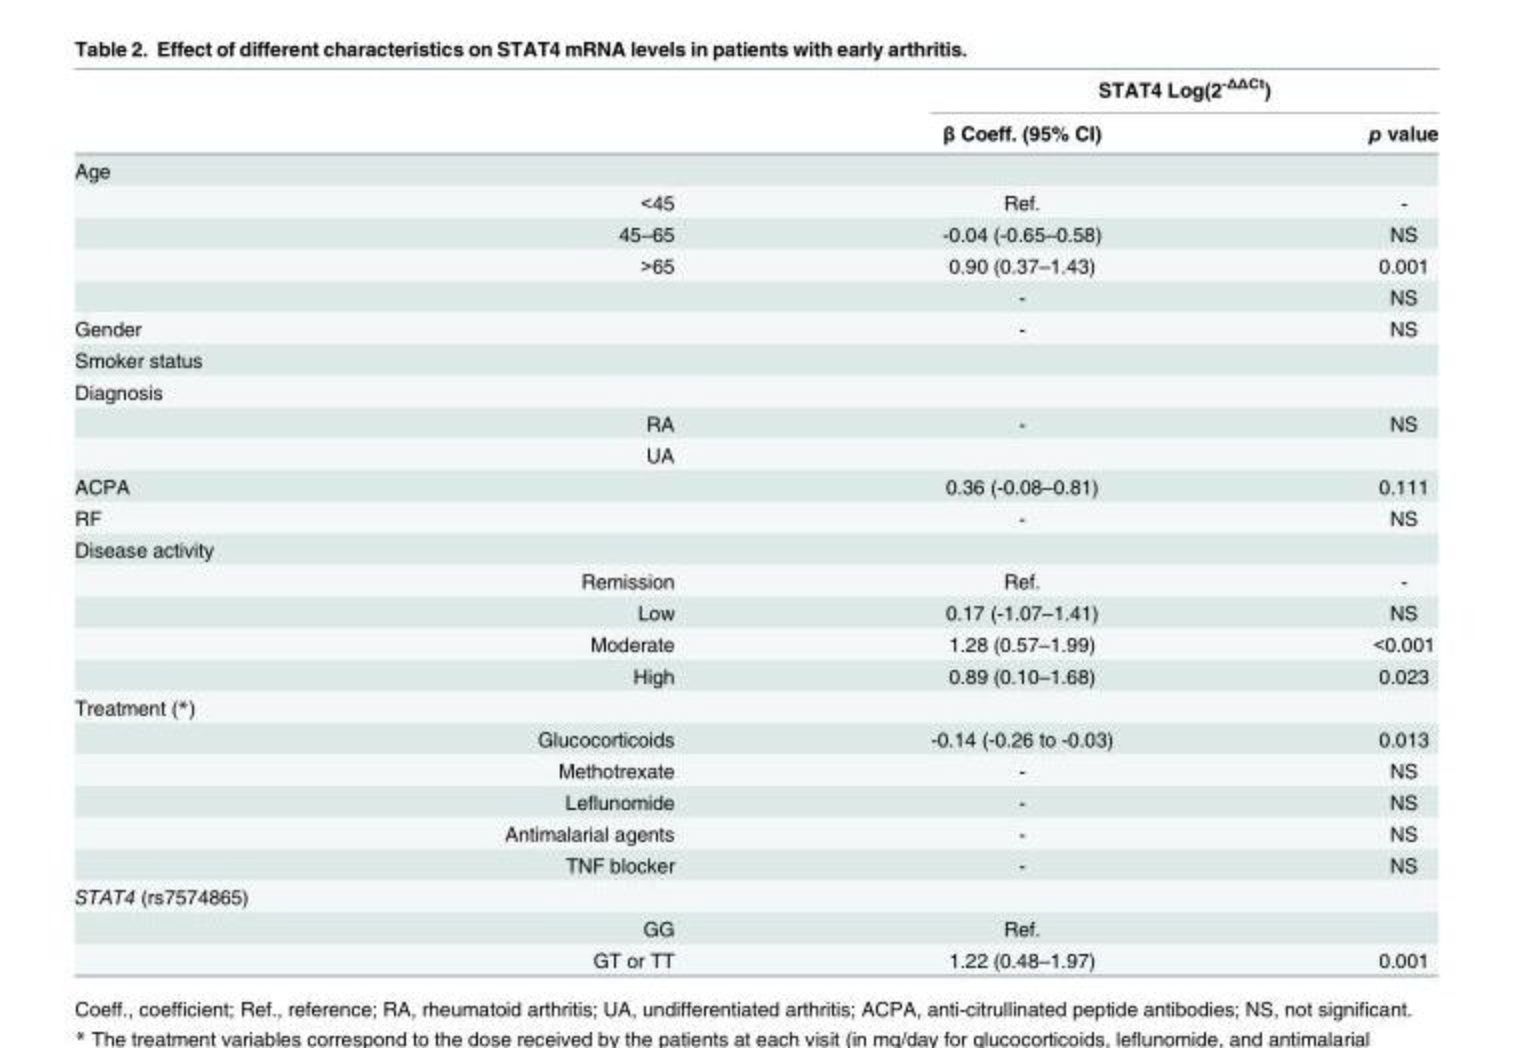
<table><thead><tr><td rowspan="2"></td><td rowspan="2"></td><td colspan="2">STAT4 Log(2<sup>-ΔΔCt</sup>)</td></tr><tr><td>β Coeff. (95% CI)</td><td>p value</td></tr></thead><tbody><tr><td colspan="4">Age</td></tr><tr><td></td><td>&lt;45</td><td>Ref.</td><td>-</td></tr><tr><td></td><td>45–65</td><td>-0.04 (-0.65–0.58)</td><td>NS</td></tr><tr><td></td><td>&gt;65</td><td>0.90 (0.37–1.43)</td><td>0.001</td></tr><tr><td></td><td></td><td>-</td><td>NS</td></tr><tr><td>Gender</td><td></td><td>-</td><td>NS</td></tr><tr><td colspan="4">Smoker status</td></tr><tr><td colspan="4">Diagnosis</td></tr><tr><td></td><td>RA</td><td>-</td><td>NS</td></tr><tr><td></td><td>UA</td><td></td><td></td></tr><tr><td>ACPA</td><td></td><td>0.36 (-0.08–0.81)</td><td>0.111</td></tr><tr><td>RF</td><td></td><td>-</td><td>NS</td></tr><tr><td colspan="4">Disease activity</td></tr><tr><td></td><td>Remission</td><td>Ref.</td><td>-</td></tr><tr><td></td><td>Low</td><td>0.17 (-1.07–1.41)</td><td>NS</td></tr><tr><td></td><td>Moderate</td><td>1.28 (0.57–1.99)</td><td>&lt;0.001</td></tr><tr><td></td><td>High</td><td>0.89 (0.10–1.68)</td><td>0.023</td></tr><tr><td colspan="4">Treatment (*)</td></tr><tr><td></td><td>Glucocorticoids</td><td>-0.14 (-0.26 to -0.03)</td><td>0.013</td></tr><tr><td></td><td>Methotrexate</td><td>-</td><td>NS</td></tr><tr><td></td><td>Leflunomide</td><td>-</td><td>NS</td></tr><tr><td></td><td>Antimalarial agents</td><td>-</td><td>NS</td></tr><tr><td></td><td>TNF blocker</td><td>-</td><td>NS</td></tr><tr><td colspan="4">STAT4 (rs7574865)</td></tr><tr><td></td><td>GG</td><td>Ref.</td><td></td></tr><tr><td></td><td>GT or TT</td><td>1.22 (0.48–1.97)</td><td>0.001</td></tr></tbody></table>